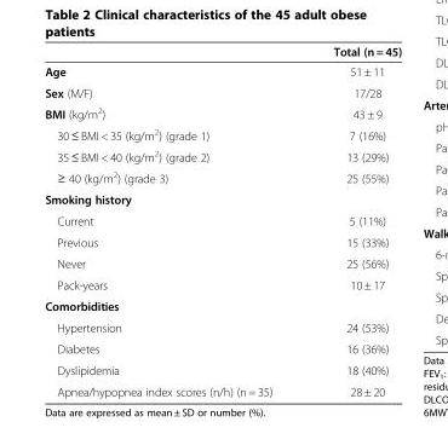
<table><thead><tr><td></td><td>Total (n = 45)</td></tr></thead><tbody><tr><td>Age</td><td>51 ± 11</td></tr><tr><td>Sex (M/F)</td><td>17/28</td></tr><tr><td>BMI (kg/m<sup>2</sup>)</td><td>43 ± 9</td></tr><tr><td>30 ≤ BMI &lt; 35 (kg/m<sup>2</sup>) (grade 1)</td><td>7 (16%)</td></tr><tr><td>35 ≤ BMI &lt; 40 (kg/m<sup>2</sup>) (grade 2)</td><td>13 (29%)</td></tr><tr><td>≥ 40 (kg/m<sup>2</sup>) (grade 3)</td><td>25 (55%)</td></tr><tr><td colspan="2">Smoking history</td></tr><tr><td>Current</td><td>5 (11%)</td></tr><tr><td>Previous</td><td>15 (33%)</td></tr><tr><td>Never</td><td>25 (56%)</td></tr><tr><td>Pack-years</td><td>10 ± 17</td></tr><tr><td colspan="2">Comorbidities</td></tr><tr><td>Hypertension</td><td>24 (53%)</td></tr><tr><td>Diabetes</td><td>16 (36%)</td></tr><tr><td>Dyslipidemia</td><td>18 (40%)</td></tr><tr><td>Apnea/hypopnea index scores (n/h) (n = 35)</td><td>28 ± 20</td></tr></tbody></table>